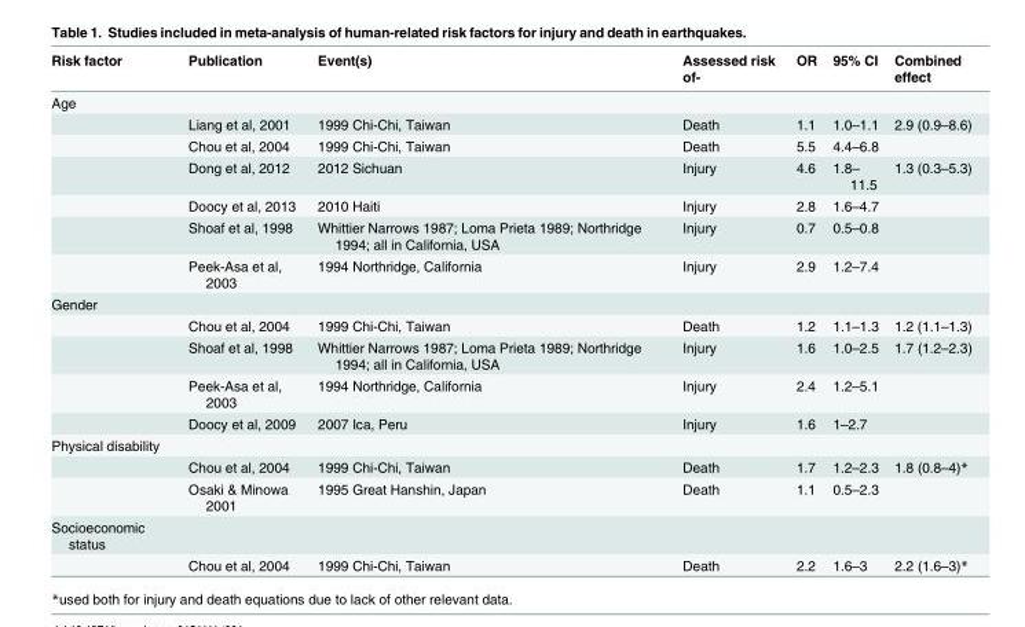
<table><thead><tr><td>Risk factor</td><td>Publication</td><td>Event(s)</td><td>Assessed risk of-</td><td>OR</td><td>95% CI</td><td>Combined effect</td></tr></thead><tbody><tr><td colspan="7">Age</td></tr><tr><td></td><td>Liang et al, 2001</td><td>1999 Chi-Chi, Taiwan</td><td>Death</td><td>1.1</td><td>1.0–1.1</td><td>2.9 (0.9–8.6)</td></tr><tr><td></td><td>Chou et al, 2004</td><td>1999 Chi-Chi, Taiwan</td><td>Death</td><td>5.5</td><td>4.4–6.8</td><td></td></tr><tr><td></td><td>Dong et al, 2012</td><td>2012 Sichuan</td><td>Injury</td><td>4.6</td><td>1.8– 11.5</td><td>1.3 (0.3–5.3)</td></tr><tr><td></td><td>Doocy et al, 2013</td><td>2010 Haiti</td><td>Injury</td><td>2.8</td><td>1.6–4.7</td><td></td></tr><tr><td></td><td>Shoaf et al, 1998</td><td>Whittier Narrows 1987; Loma Prieta 1989; Northridge 1994; all in California, USA</td><td>Injury</td><td>0.7</td><td>0.5–0.8</td><td></td></tr><tr><td></td><td>Peek-Asa et al, 2003</td><td>1994 Northridge, California</td><td>Injury</td><td>2.9</td><td>1.2–7.4</td><td></td></tr><tr><td colspan="7">Gender</td></tr><tr><td></td><td>Chou et al, 2004</td><td>1999 Chi-Chi, Taiwan</td><td>Death</td><td>1.2</td><td>1.1–1.3</td><td>1.2 (1.1–1.3)</td></tr><tr><td></td><td>Shoaf et al, 1998</td><td>Whittier Narrows 1987; Loma Prieta 1989; Northridge 1994; all in California, USA</td><td>Injury</td><td>1.6</td><td>1.0–2.5</td><td>1.7 (1.2–2.3)</td></tr><tr><td></td><td>Peek-Asa et al, 2003</td><td>1994 Northridge, California</td><td>Injury</td><td>2.4</td><td>1.2–5.1</td><td></td></tr><tr><td></td><td>Doocy et al, 2009</td><td>2007 Ica, Peru</td><td>Injury</td><td>1.6</td><td>1–2.7</td><td></td></tr><tr><td colspan="7">Physical disability</td></tr><tr><td></td><td>Chou et al, 2004</td><td>1999 Chi-Chi, Taiwan</td><td>Death</td><td>1.7</td><td>1.2–2.3</td><td>1.8 (0.8–4)*</td></tr><tr><td></td><td>Osaki &amp; Minowa 2001</td><td>1995 Great Hanshin, Japan</td><td>Death</td><td>1.1</td><td>0.5–2.3</td><td></td></tr><tr><td colspan="7">Socioeconomic status</td></tr><tr><td></td><td>Chou et al, 2004</td><td>1999 Chi-Chi, Taiwan</td><td>Death</td><td>2.2</td><td>1.6–3</td><td>2.2 (1.6–3)*</td></tr></tbody></table>